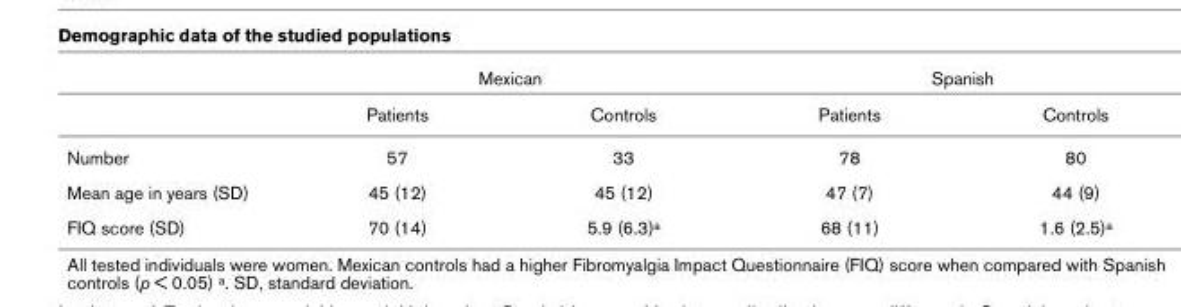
<table><thead><tr><td rowspan="2"></td><td colspan="2">Mexican</td><td colspan="2">Spanish</td></tr><tr><td>Patients</td><td>Controls</td><td>Patients</td><td>Controls</td></tr></thead><tbody><tr><td>Number</td><td>57</td><td>33</td><td>78</td><td>80</td></tr><tr><td>Mean age in years (SD)</td><td>45 (12)</td><td>45 (12)</td><td>47 (7)</td><td>44 (9)</td></tr><tr><td>FIQ score (SD)</td><td>70 (14)</td><td>5.9 (6.3)<sup>a</sup></td><td>68 (11)</td><td>1.6 (2.5)<sup>a</sup></td></tr></tbody></table>